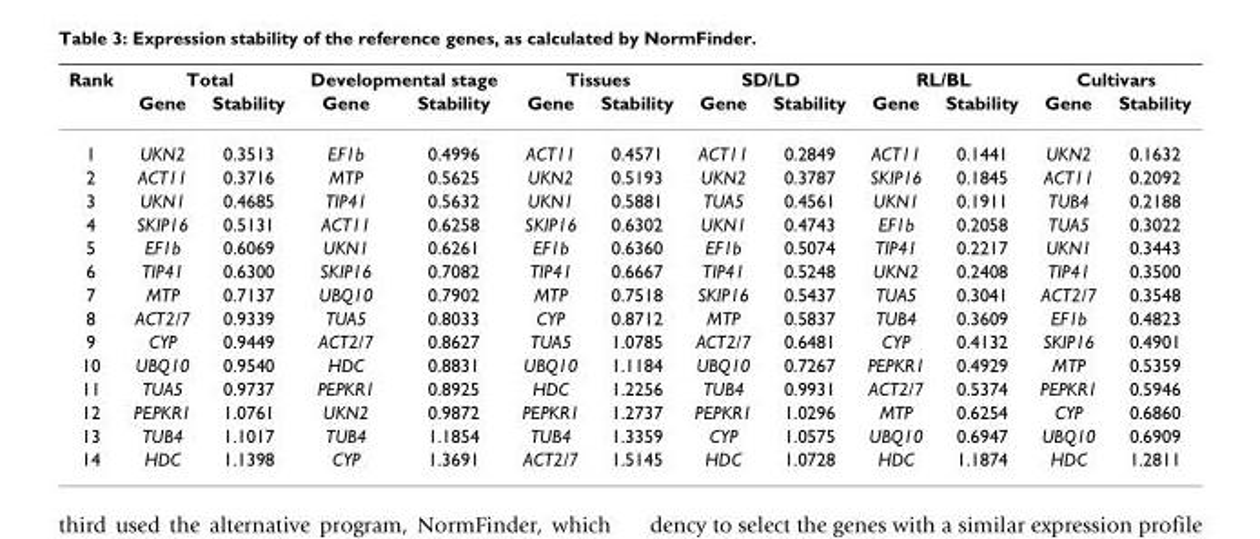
<table><thead><tr><td rowspan="2">Rank</td><td colspan="2">Total</td><td colspan="2">Developmental stage</td><td colspan="2">Tissues</td><td colspan="2">SD/LD</td><td colspan="2">RL/BL</td><td colspan="2">Cultivars</td></tr><tr><td>Gene</td><td>Stability</td><td>Gene</td><td>Stability</td><td>Gene</td><td>Stability</td><td>Gene</td><td>Stability</td><td>Gene</td><td>Stability</td><td>Gene</td><td>Stability</td></tr></thead><tbody><tr><td>1</td><td>UKN2</td><td>0.3513</td><td>EF1b</td><td>0.4996</td><td>ACT11</td><td>0.4571</td><td>ACT11</td><td>0.2849</td><td>ACT11</td><td>0.1441</td><td>UKN2</td><td>0.1632</td></tr><tr><td>2</td><td>ACT11</td><td>0.3716</td><td>MTP</td><td>0.5625</td><td>UKN2</td><td>0.5193</td><td>UKN2</td><td>0.3787</td><td>SKIP16</td><td>0.1845</td><td>ACT11</td><td>0.2092</td></tr><tr><td>3</td><td>UKN1</td><td>0.4685</td><td>TIP41</td><td>0.5632</td><td>UKN1</td><td>0.5881</td><td>TUA5</td><td>0.4561</td><td>UKN1</td><td>0.1911</td><td>TUB4</td><td>0.2188</td></tr><tr><td>4</td><td>SKIP16</td><td>0.5131</td><td>ACT11</td><td>0.6258</td><td>SKIP16</td><td>0.6302</td><td>UKN1</td><td>0.4743</td><td>EF1b</td><td>0.2058</td><td>TUA5</td><td>0.3022</td></tr><tr><td>5</td><td>EF1b</td><td>0.6069</td><td>UKN1</td><td>0.6261</td><td>EF1b</td><td>0.6360</td><td>EF1b</td><td>0.5074</td><td>TIP41</td><td>0.2217</td><td>UKN1</td><td>0.3443</td></tr><tr><td>6</td><td>TIP41</td><td>0.6300</td><td>SKIP16</td><td>0.7082</td><td>TIP41</td><td>0.6667</td><td>TIP41</td><td>0.5248</td><td>UKN2</td><td>0.2408</td><td>TIP41</td><td>0.3500</td></tr><tr><td>7</td><td>MTP</td><td>0.7137</td><td>UBQ10</td><td>0.7902</td><td>MTP</td><td>0.7518</td><td>SKIP16</td><td>0.5437</td><td>TUA5</td><td>0.3041</td><td>ACT2/7</td><td>0.3548</td></tr><tr><td>8</td><td>ACT2/7</td><td>0.9339</td><td>TUA5</td><td>0.8033</td><td>CYP</td><td>0.8712</td><td>MTP</td><td>0.5837</td><td>TUB4</td><td>0.3609</td><td>EF1b</td><td>0.4823</td></tr><tr><td>9</td><td>CYP</td><td>0.9449</td><td>ACT2/7</td><td>0.8627</td><td>TUA5</td><td>1.0785</td><td>ACT2/7</td><td>0.6481</td><td>CYP</td><td>0.4132</td><td>SKIP16</td><td>0.4901</td></tr><tr><td>10</td><td>UBQ10</td><td>0.9540</td><td>HDC</td><td>0.8831</td><td>UBQ10</td><td>1.1184</td><td>UBQ10</td><td>0.7267</td><td>PEPKR1</td><td>0.4929</td><td>MTP</td><td>0.5359</td></tr><tr><td>11</td><td>TUA5</td><td>0.9737</td><td>PEPKR1</td><td>0.8925</td><td>HDC</td><td>1.2256</td><td>TUB4</td><td>0.9931</td><td>ACT2/7</td><td>0.5374</td><td>PEPKR1</td><td>0.5946</td></tr><tr><td>12</td><td>PEPKR1</td><td>1.0761</td><td>UKN2</td><td>0.9872</td><td>PEPKR1</td><td>1.2737</td><td>PEPKR1</td><td>1.0296</td><td>MTP</td><td>0.6254</td><td>CYP</td><td>0.6860</td></tr><tr><td>13</td><td>TUB4</td><td>1.1017</td><td>TUB4</td><td>1.1854</td><td>TUB4</td><td>1.3359</td><td>CYP</td><td>1.0575</td><td>UBQ10</td><td>0.6947</td><td>UBQ10</td><td>0.6909</td></tr><tr><td>14</td><td>HDC</td><td>1.1398</td><td>CYP</td><td>1.3691</td><td>ACT2/7</td><td>1.5145</td><td>HDC</td><td>1.0728</td><td>HDC</td><td>1.1874</td><td>HDC</td><td>1.2811</td></tr></tbody></table>